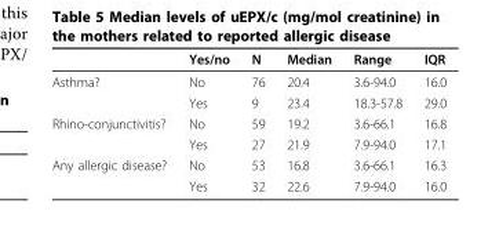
<table><thead><tr><td></td><td>Yes/no</td><td>N</td><td>Median</td><td>Range</td><td>IQR</td></tr></thead><tbody><tr><td rowspan="2">Asthma?</td><td>No</td><td>76</td><td>20.4</td><td>3.6-94.0</td><td>16.0</td></tr><tr><td>Yes</td><td>9</td><td>23.4</td><td>18.3-57.8</td><td>29.0</td></tr><tr><td rowspan="2">Rhino-conjunctivitis?</td><td>No</td><td>59</td><td>19.2</td><td>3.6-66.1</td><td>16.8</td></tr><tr><td>Yes</td><td>27</td><td>21.9</td><td>7.9-94.0</td><td>17.1</td></tr><tr><td rowspan="2">Any allergic disease?</td><td>No</td><td>53</td><td>16.8</td><td>3.6-66.1</td><td>16.3</td></tr><tr><td>Yes</td><td>32</td><td>22.6</td><td>7.9-94.0</td><td>16.0</td></tr></tbody></table>